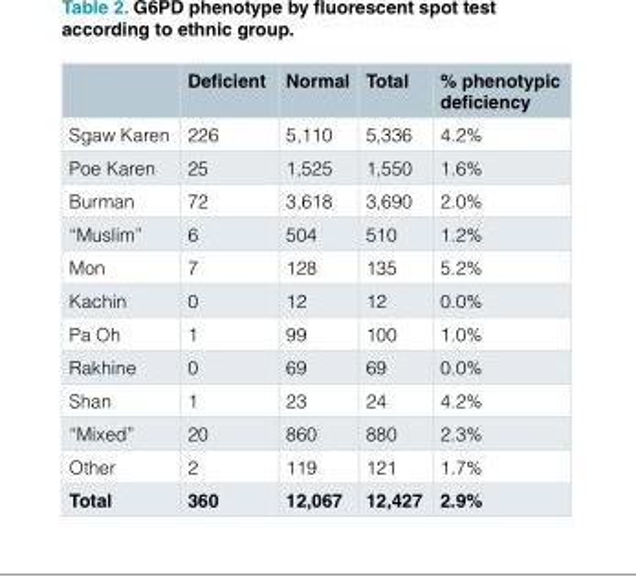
<table><thead><tr><td></td><td>Deficient</td><td>Normal</td><td>Total</td><td>% phenotypic deficiency</td></tr></thead><tbody><tr><td>Sgaw Karen</td><td>226</td><td>5,110</td><td>5,336</td><td>4.2%</td></tr><tr><td>Poe Karen</td><td>25</td><td>1,525</td><td>1,550</td><td>1.6%</td></tr><tr><td>Burman</td><td>72</td><td>3,618</td><td>3,690</td><td>2.0%</td></tr><tr><td>“Muslim”</td><td>6</td><td>504</td><td>510</td><td>1.2%</td></tr><tr><td>Mon</td><td>7</td><td>128</td><td>135</td><td>5.2%</td></tr><tr><td>Kachin</td><td>0</td><td>12</td><td>12</td><td>0.0%</td></tr><tr><td>Pa Oh</td><td>1</td><td>99</td><td>100</td><td>1.0%</td></tr><tr><td>Rakhine</td><td>0</td><td>69</td><td>69</td><td>0.0%</td></tr><tr><td>Shan</td><td>1</td><td>23</td><td>24</td><td>4.2%</td></tr><tr><td>“Mixed”</td><td>20</td><td>860</td><td>880</td><td>2.3%</td></tr><tr><td>Other</td><td>2</td><td>119</td><td>121</td><td>1.7%</td></tr><tr><td>Total</td><td>360</td><td>12,067</td><td>12,427</td><td>2.9%</td></tr></tbody></table>